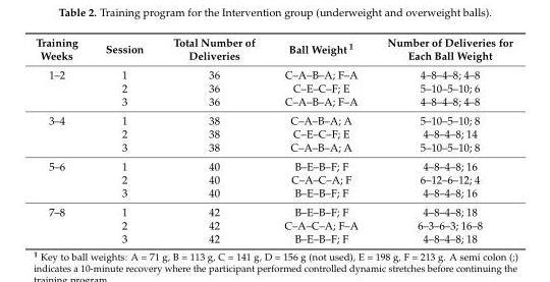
<table><thead><tr><td>Training Weeks</td><td>Session</td><td>Total Number of Deliveries</td><td>Ball Weight <sup>1</sup></td><td>Number of Deliveries for Each Ball Weight</td></tr></thead><tbody><tr><td rowspan="3">1–2</td><td>1</td><td>36</td><td>C–A–B–A; F–A</td><td>4–8–4–8; 4–8</td></tr><tr><td>2</td><td>36</td><td>C–E–C–F; E</td><td>5–10–5–10; 6</td></tr><tr><td>3</td><td>36</td><td>C–A–B–A; F–A</td><td>4–8–4–8; 4–8</td></tr><tr><td rowspan="3">3–4</td><td>1</td><td>38</td><td>C–A–B–A; A</td><td>5–10–5–10; 8</td></tr><tr><td>2</td><td>38</td><td>C–E–C–F; E</td><td>4–8–4–8; 14</td></tr><tr><td>3</td><td>38</td><td>C–A–B–A; A</td><td>5–10–5–10; 8</td></tr><tr><td rowspan="3">5–6</td><td>1</td><td>40</td><td>B–E–B–F; F</td><td>4–8–4–8; 16</td></tr><tr><td>2</td><td>40</td><td>C–A–C–A; F</td><td>6–12–6–12; 4</td></tr><tr><td>3</td><td>40</td><td>B–E–B–F; F</td><td>4–8–4–8; 16</td></tr><tr><td rowspan="3">7–8</td><td>1</td><td>42</td><td>B–E–B–F; F</td><td>4–8–4–8; 18</td></tr><tr><td>2</td><td>42</td><td>C–A–C–A; F–A</td><td>6–3–6–3; 16–8</td></tr><tr><td>3</td><td>42</td><td>B–E–B–F; F</td><td>4–8–4–8; 18</td></tr></tbody></table>